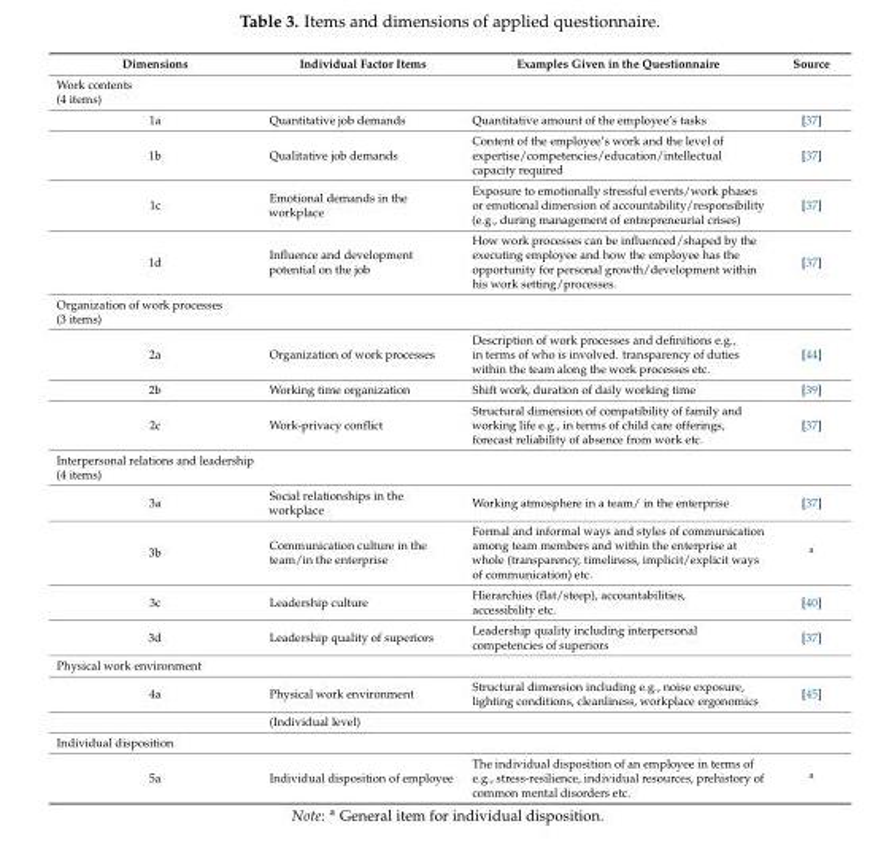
<table><thead><tr><td>Dimensions</td><td>Individual Factor Items</td><td>Examples Given in the Questionnaire</td><td>Source</td></tr></thead><tbody><tr><td colspan="4">Work contents (4 items)</td></tr><tr><td>1a</td><td>Quantitative job demands</td><td>Quantitative amount of the employee’s tasks</td><td>[37]</td></tr><tr><td>1b</td><td>Qualitative job demands</td><td>Content of the employee’s work and the level of expertise/competencies/education/intellectual capacity required</td><td>[37]</td></tr><tr><td>1c</td><td>Emotional demands in the workplace</td><td>Exposure to emotionally stressful events/work phases or emotional dimension of accountability/responsibility (e.g., during management of entrepreneurial crises)</td><td>[37]</td></tr><tr><td>1d</td><td>Influence and development potential on the job</td><td>How work processes can be influenced/shaped by the executing employee and how the employee has the opportunity for personal growth/development within his work setting/processes.</td><td>[37]</td></tr><tr><td colspan="4">Organization of work processes (3 items)</td></tr><tr><td>2a</td><td>Organization of work processes</td><td>Description of work processes and definitions e.g., in terms of who is involved. transparency of duties within the team along the work processes etc.</td><td>[44]</td></tr><tr><td>2b</td><td>Working time organization</td><td>Shift work, duration of daily working time</td><td>[39]</td></tr><tr><td>2c</td><td>Work-privacy conflict</td><td>Structural dimension of compatibility of family and working life e.g., in terms of child care offerings, forecast reliability of absence from work etc.</td><td>[37]</td></tr><tr><td colspan="4">Interpersonal relations and leadership (4 items)</td></tr><tr><td>3a</td><td>Social relationships in the workplace</td><td>Working atmosphere in a team/ in the enterprise</td><td>[37]</td></tr><tr><td>3b</td><td>Communication culture in the team/in the enterprise</td><td>Formal and informal ways and styles of communication among team members and within the enterprise at whole (transparency, timeliness, implicit/explicit ways of communication) etc.</td><td><sup>a</sup></td></tr><tr><td>3c</td><td>Leadership culture</td><td>Hierarchies (flat/steep), accountabilities, accessibility etc.</td><td>[40]</td></tr><tr><td>3d</td><td>Leadership quality of superiors</td><td>Leadership quality including interpersonal competencies of superiors</td><td>[37]</td></tr><tr><td colspan="4">Physical work environment</td></tr><tr><td rowspan="2">4a</td><td>Physical work environment</td><td>Structural dimension including e.g., noise exposure, lighting conditions, cleanliness, workplace ergonomics</td><td>[45]</td></tr><tr><td>(Individual level)</td><td></td><td></td></tr><tr><td colspan="4">Individual disposition</td></tr><tr><td>5a</td><td>Individual disposition of employee</td><td>The individual disposition of an employee in terms of e.g., stress-resilience, individual resources, prehistory of common mental disorders etc.</td><td><sup>a</sup></td></tr></tbody></table>